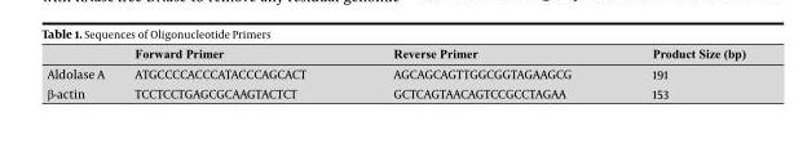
<table><thead><tr><td></td><td>Forward Primer</td><td>Reverse Primer</td><td>Product Size (bp)</td></tr></thead><tbody><tr><td>Aldolase A</td><td>ATGCCCCACCCATACCCAGCACT</td><td>AGCAGCAGTTGGCGGTAGAAGCG</td><td>191</td></tr><tr><td>β-actin</td><td>TCCTCCTGAGCGCAAGTACTCT</td><td>GCTCAGTAACAGTCCGCCTAGAA</td><td>153</td></tr></tbody></table>